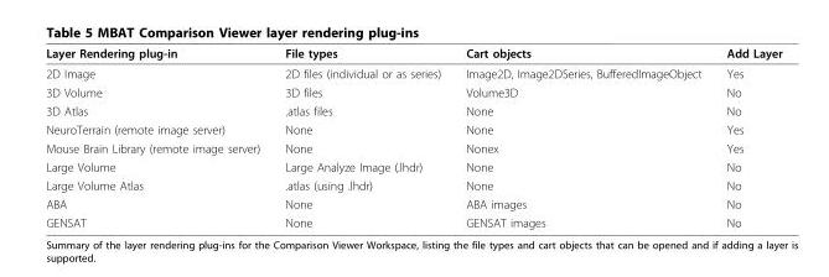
<table><thead><tr><td>Layer Rendering plug-in</td><td>File types</td><td>Cart objects</td><td>Add Layer</td></tr></thead><tbody><tr><td>2D Image</td><td>2D files (individual or as series)</td><td>Image2D, Image2DSeries, BufferedImageObject</td><td>Yes</td></tr><tr><td>3D Volume</td><td>3D files</td><td>Volume3D</td><td>No</td></tr><tr><td>3D Atlas</td><td>.atlas files</td><td>None</td><td>No</td></tr><tr><td>NeuroTerrain (remote image server)</td><td>None</td><td>None</td><td>Yes</td></tr><tr><td>Mouse Brain Library (remote image server)</td><td>None</td><td>Nonex</td><td>Yes</td></tr><tr><td>Large Volume</td><td>Large Analyze Image (.lhdr)</td><td>None</td><td>No</td></tr><tr><td>Large Volume Atlas</td><td>.atlas (using .lhdr)</td><td>None</td><td>No</td></tr><tr><td>ABA</td><td>None</td><td>ABA images</td><td>No</td></tr><tr><td>GENSAT</td><td>None</td><td>GENSAT images</td><td>No</td></tr></tbody></table>